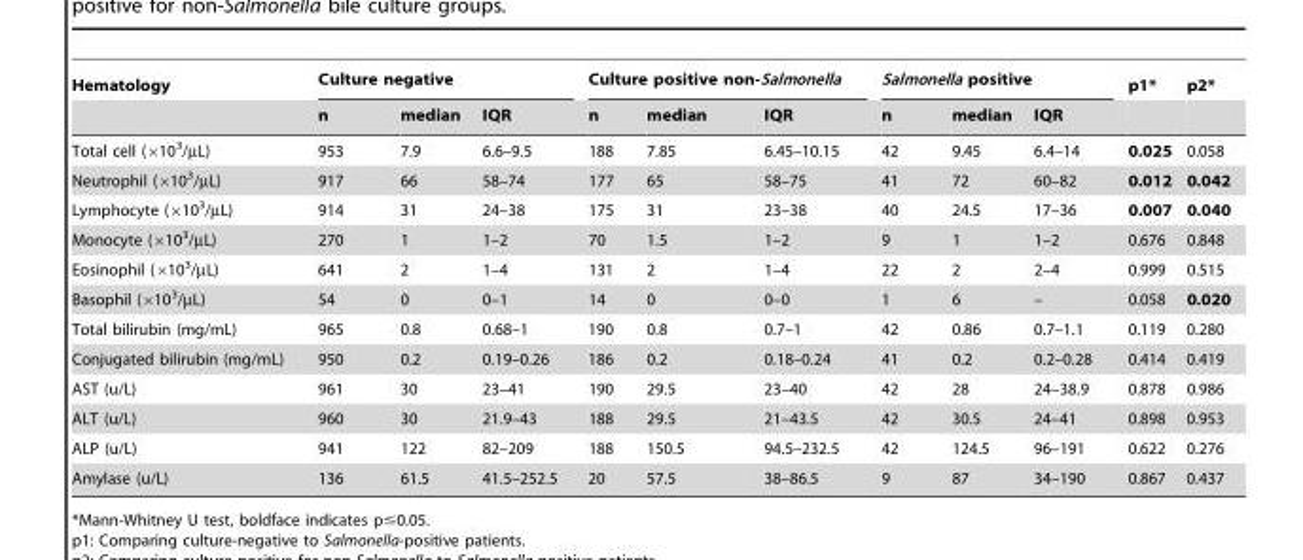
<table><thead><tr><td rowspan="2">Hematology</td><td colspan="3">Culture negative</td><td colspan="3">Culture positive non-Salmonella</td><td colspan="3">Salmonella positive</td><td rowspan="2">p1*</td><td rowspan="2">p2*</td></tr><tr><td>n</td><td>median</td><td>IQR</td><td>n</td><td>median</td><td>IQR</td><td>n</td><td>median</td><td>IQR</td></tr></thead><tbody><tr><td>Total cell (×10<sup>3</sup>/µL)</td><td>953</td><td>7.9</td><td>6.6–9.5</td><td>188</td><td>7.85</td><td>6.45–10.15</td><td>42</td><td>9.45</td><td>6.4–14</td><td>0.025</td><td>0.058</td></tr><tr><td>Neutrophil (×10<sup>3</sup>/µL)</td><td>917</td><td>66</td><td>58–74</td><td>177</td><td>65</td><td>58–75</td><td>41</td><td>72</td><td>60–82</td><td>0.012</td><td>0.042</td></tr><tr><td>Lymphocyte (×10<sup>3</sup>/µL)</td><td>914</td><td>31</td><td>24–38</td><td>175</td><td>31</td><td>23–38</td><td>40</td><td>24.5</td><td>17–36</td><td>0.007</td><td>0.040</td></tr><tr><td>Monocyte (×10<sup>3</sup>/µL)</td><td>270</td><td>1</td><td>1–2</td><td>70</td><td>1.5</td><td>1–2</td><td>9</td><td>1</td><td>1–2</td><td>0.676</td><td>0.848</td></tr><tr><td>Eosinophil (×10<sup>3</sup>/µL)</td><td>641</td><td>2</td><td>1–4</td><td>131</td><td>2</td><td>1–4</td><td>22</td><td>2</td><td>2–4</td><td>0.999</td><td>0.515</td></tr><tr><td>Basophil (×10<sup>3</sup>/µL)</td><td>54</td><td>0</td><td>0–1</td><td>14</td><td>0</td><td>0–0</td><td>1</td><td>6</td><td>–</td><td>0.058</td><td>0.020</td></tr><tr><td>Total bilirubin (mg/mL)</td><td>965</td><td>0.8</td><td>0.68–1</td><td>190</td><td>0.8</td><td>0.7–1</td><td>42</td><td>0.86</td><td>0.7–1.1</td><td>0.119</td><td>0.280</td></tr><tr><td>Conjugated bilirubin (mg/mL)</td><td>950</td><td>0.2</td><td>0.19–0.26</td><td>186</td><td>0.2</td><td>0.18–0.24</td><td>41</td><td>0.2</td><td>0.2–0.28</td><td>0.414</td><td>0.419</td></tr><tr><td>AST (u/L)</td><td>961</td><td>30</td><td>23–41</td><td>190</td><td>29.5</td><td>23–40</td><td>42</td><td>28</td><td>24–38.9</td><td>0.878</td><td>0.986</td></tr><tr><td>ALT (u/L)</td><td>960</td><td>30</td><td>21.9–43</td><td>188</td><td>29.5</td><td>21–43.5</td><td>42</td><td>30.5</td><td>24–41</td><td>0.898</td><td>0.953</td></tr><tr><td>ALP (u/L)</td><td>941</td><td>122</td><td>82–209</td><td>188</td><td>150.5</td><td>94.5–232.5</td><td>42</td><td>124.5</td><td>96–191</td><td>0.622</td><td>0.276</td></tr><tr><td>Amylase (u/L)</td><td>136</td><td>61.5</td><td>41.5–252.5</td><td>20</td><td>57.5</td><td>38–86.5</td><td>9</td><td>87</td><td>34–190</td><td>0.867</td><td>0.437</td></tr></tbody></table>